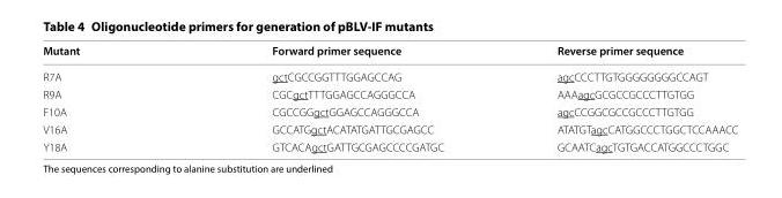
<table><thead><tr><td>Mutant</td><td>Forward primer sequence</td><td>Reverse primer sequence</td></tr></thead><tbody><tr><td>R7A</td><td>gctCGCCGGTTTGGAGCCAG</td><td>agcCCCTTGTGGGGGGGGCCAGT</td></tr><tr><td>R9A</td><td>CGCgctTTTGGAGCCAGGGCCA</td><td>AAAagcGCGCCGCCCTTGTGG</td></tr><tr><td>F10A</td><td>CGCCGGgctGGAGCCAGGGCCA</td><td>agcCCGGCGCCGCCCTTGTGG</td></tr><tr><td>V16A</td><td>GCCATGgctACATATGATTGCGAGCC</td><td>ATATGTagcCATGGCCCTGGCTCCAAACC</td></tr><tr><td>Y18A</td><td>GTCACAgctGATTGCGAGCCCCGATGC</td><td>GCAATCagcTGTGACCATGGCCCTGGC</td></tr></tbody></table>